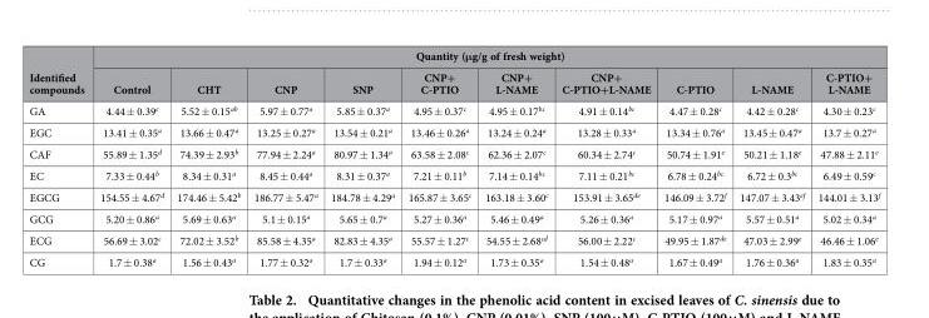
<table><thead><tr><td rowspan="2">Identified compounds</td><td colspan="10">Quantity (μg/g of fresh weight)</td></tr><tr><td>Control</td><td>CHT</td><td>CNP</td><td>SNP</td><td>CNP+ C-PTIO</td><td>CNP+ L-NAME</td><td>CNP+ C-PTIO+L-NAME</td><td>C-PTIO</td><td>L-NAME</td><td>C-PTIO+ L-NAME</td></tr></thead><tbody><tr><td>GA</td><td>4.44 ± 0.39<sup>c</sup></td><td>5.52 ± 0.15<sup>ab</sup></td><td>5.97 ± 0.77<sup>a</sup></td><td>5.85 ± 0.37<sup>a</sup></td><td>4.95 ± 0.37<sup>c</sup></td><td>4.95 ± 0.17<sup>bc</sup></td><td>4.91 ± 0.14<sup>bc</sup></td><td>4.47 ± 0.28<sup>c</sup></td><td>4.42 ± 0.28<sup>c</sup></td><td>4.30 ± 0.23<sup>c</sup></td></tr><tr><td>EGC</td><td>13.41 ± 0.35<sup>a</sup></td><td>13.66 ± 0.47<sup>a</sup></td><td>13.25 ± 0.27<sup>a</sup></td><td>13.54 ± 0.21<sup>a</sup></td><td>13.46 ± 0.26<sup>a</sup></td><td>13.24 ± 0.24<sup>a</sup></td><td>13.28 ± 0.33<sup>a</sup></td><td>13.34 ± 0.76<sup>a</sup></td><td>13.45 ± 0.47<sup>a</sup></td><td>13.7 ± 0.27<sup>a</sup></td></tr><tr><td>CAF</td><td>55.89 ± 1.35<sup>d</sup></td><td>74.39 ± 2.93<sup>b</sup></td><td>77.94 ± 2.24<sup>a</sup></td><td>80.97 ± 1.34<sup>a</sup></td><td>63.58 ± 2.08<sup>c</sup></td><td>62.36 ± 2.07<sup>c</sup></td><td>60.34 ± 2.74<sup>c</sup></td><td>50.74 ± 1.91<sup>e</sup></td><td>50.21 ± 1.18<sup>e</sup></td><td>47.88 ± 2.11<sup>e</sup></td></tr><tr><td>EC</td><td>7.33 ± 0.44<sup>b</sup></td><td>8.34 ± 0.31<sup>a</sup></td><td>8.45 ± 0.44<sup>a</sup></td><td>8.31 ± 0.37<sup>a</sup></td><td>7.21 ± 0.11<sup>b</sup></td><td>7.14 ± 0.14<sup>bc</sup></td><td>7.11 ± 0.21<sup>bc</sup></td><td>6.78 ± 0.24<sup>bc</sup></td><td>6.72 ± 0.3<sup>bc</sup></td><td>6.49 ± 0.59<sup>c</sup></td></tr><tr><td>EGCG</td><td>154.55 ± 4.67<sup>d</sup></td><td>174.46 ± 5.42<sup>b</sup></td><td>186.77 ± 5.47<sup>a</sup></td><td>184.78 ± 4.29<sup>a</sup></td><td>165.87 ± 3.65<sup>c</sup></td><td>163.18 ± 3.60<sup>c</sup></td><td>153.91 ± 3.65<sup>de</sup></td><td>146.09 ± 3.72<sup>f</sup></td><td>147.07 ± 3.43<sup>ef</sup></td><td>144.01 ± 3.13<sup>f</sup></td></tr><tr><td>GCG</td><td>5.20 ± 0.86<sup>a</sup></td><td>5.69 ± 0.63<sup>a</sup></td><td>5.1 ± 0.15<sup>a</sup></td><td>5.65 ± 0.7<sup>a</sup></td><td>5.27 ± 0.36<sup>a</sup></td><td>5.46 ± 0.49<sup>a</sup></td><td>5.26 ± 0.36<sup>a</sup></td><td>5.17 ± 0.97<sup>a</sup></td><td>5.57 ± 0.51<sup>a</sup></td><td>5.02 ± 0.34<sup>a</sup></td></tr><tr><td>ECG</td><td>56.69 ± 3.02<sup>c</sup></td><td>72.02 ± 3.52<sup>b</sup></td><td>85.58 ± 4.35<sup>a</sup></td><td>82.83 ± 4.35<sup>a</sup></td><td>55.57 ± 1.27<sup>c</sup></td><td>54.55 ± 2.68<sup>cd</sup></td><td>56.00 ± 2.22<sup>c</sup></td><td>49.95 ± 1.87<sup>de</sup></td><td>47.03 ± 2.99<sup>e</sup></td><td>46.46 ± 1.06<sup>e</sup></td></tr><tr><td>CG</td><td>1.7 ± 0.38<sup>a</sup></td><td>1.56 ± 0.43<sup>a</sup></td><td>1.77 ± 0.32<sup>a</sup></td><td>1.7 ± 0.33<sup>a</sup></td><td>1.94 ± 0.12<sup>a</sup></td><td>1.73 ± 0.35<sup>a</sup></td><td>1.54 ± 0.48<sup>a</sup></td><td>1.67 ± 0.49<sup>a</sup></td><td>1.76 ± 0.36<sup>a</sup></td><td>1.83 ± 0.35<sup>a</sup></td></tr></tbody></table>